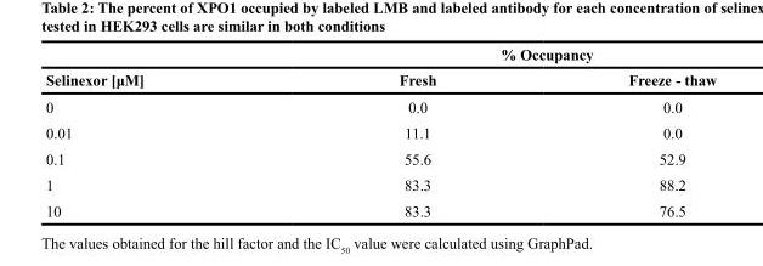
<table><thead><tr><td rowspan="2">Selinexor [μM]</td><td colspan="2">% Occupancy</td></tr><tr><td>Fresh</td><td>Freeze - thaw</td></tr></thead><tbody><tr><td>0</td><td>0.0</td><td>0.0</td></tr><tr><td>0.01</td><td>11.1</td><td>0.0</td></tr><tr><td>0.1</td><td>55.6</td><td>52.9</td></tr><tr><td>1</td><td>83.3</td><td>88.2</td></tr><tr><td>10</td><td>83.3</td><td>76.5</td></tr></tbody></table>